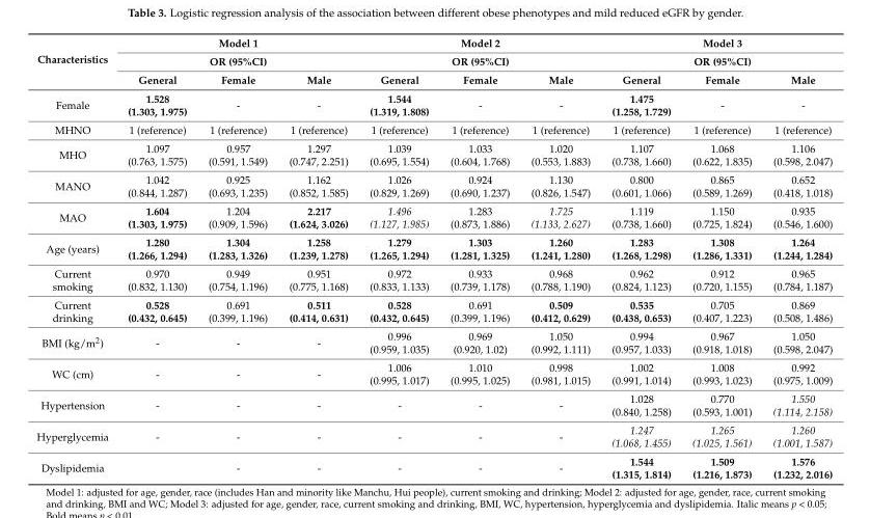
<table><thead><tr><td rowspan="3">Characteristics</td><td rowspan="2" colspan="3">Model 1 OR (95%CI)</td><td rowspan="2" colspan="3">Model 2 OR (95%CI)</td><td rowspan="2" colspan="3">Model 3 OR (95%CI)</td></tr><tr></tr><tr><td>General</td><td>Female</td><td>Male</td><td>General</td><td>Female</td><td>Male</td><td>General</td><td>Female</td><td>Male</td></tr></thead><tbody><tr><td>Female</td><td>1.528 (1.303, 1.975)</td><td>-</td><td>-</td><td>1.544 (1.319, 1.808)</td><td>-</td><td>-</td><td>1.475 (1.258, 1.729)</td><td>-</td><td>-</td></tr><tr><td>MHNO</td><td>1 (reference)</td><td>1 (reference)</td><td>1 (reference)</td><td>1 (reference)</td><td>1 (reference)</td><td>1 (reference)</td><td>1 (reference)</td><td>1 (reference)</td><td>1 (reference)</td></tr><tr><td>MHO</td><td>1.097 (0.763, 1.575)</td><td>0.957 (0.591, 1.549)</td><td>1.297 (0.747, 2.251)</td><td>1.039 (0.695, 1.554)</td><td>1.033 (0.604, 1.768)</td><td>1.020 (0.553, 1.883)</td><td>1.107 (0.738, 1.660)</td><td>1.068 (0.622, 1.835)</td><td>1.106 (0.598, 2.047)</td></tr><tr><td>MANO</td><td>1.042 (0.844, 1.287)</td><td>0.925 (0.693, 1.235)</td><td>1.162 (0.852, 1.585)</td><td>1.026 (0.829, 1.269)</td><td>0.924 (0.690, 1.237)</td><td>1.130 (0.826, 1.547)</td><td>0.800 (0.601, 1.066)</td><td>0.865 (0.589, 1.269)</td><td>0.652 (0.418, 1.018)</td></tr><tr><td>MAO</td><td>1.604 (1.303, 1.975)</td><td>1.204 (0.909, 1.596)</td><td>2.217 (1.624, 3.026)</td><td>1.496 (1.127, 1.985)</td><td>1.283 (0.873, 1.886)</td><td>1.725 (1.133, 2.627)</td><td>1.119 (0.738, 1.660)</td><td>1.150 (0.725, 1.824)</td><td>0.935 (0.546, 1.600)</td></tr><tr><td>Age (years)</td><td>1.280 (1.266, 1.294)</td><td>1.304 (1.283, 1.326)</td><td>1.258 (1.239, 1.278)</td><td>1.279 (1.265, 1.294)</td><td>1.303 (1.281, 1.325)</td><td>1.260 (1.241, 1.280)</td><td>1.283 (1.268, 1.298)</td><td>1.308 (1.286, 1.331)</td><td>1.264 (1.244, 1.284)</td></tr><tr><td>Current smoking</td><td>0.970 (0.832, 1.130)</td><td>0.949 (0.754, 1.196)</td><td>0.951 (0.775, 1.168)</td><td>0.972 (0.833, 1.133)</td><td>0.933 (0.739, 1.178)</td><td>0.968 (0.788, 1.190)</td><td>0.962 (0.824, 1.123)</td><td>0.912 (0.720, 1.155)</td><td>0.965 (0.784, 1.187)</td></tr><tr><td>Current drinking</td><td>0.528 (0.432, 0.645)</td><td>0.691 (0.399, 1.196)</td><td>0.511 (0.414, 0.631)</td><td>0.528 (0.432, 0.645)</td><td>0.691 (0.399, 1.196)</td><td>0.509 (0.412, 0.629)</td><td>0.535 (0.438, 0.653)</td><td>0.705 (0.407, 1.223)</td><td>0.869 (0.508, 1.486)</td></tr><tr><td>BMI (kg/m<sup>2</sup>)</td><td>-</td><td>-</td><td>-</td><td>0.996 (0.959, 1.035)</td><td>0.969 (0.920, 1.02)</td><td>1.050 (0.992, 1.111)</td><td>0.994 (0.957, 1.033)</td><td>0.967 (0.918, 1.018)</td><td>1.050 (0.598, 2.047)</td></tr><tr><td>WC (cm)</td><td>-</td><td>-</td><td>-</td><td>1.006 (0.995, 1.017)</td><td>1.010 (0.995, 1.025)</td><td>0.998 (0.981, 1.015)</td><td>1.002 (0.991, 1.014)</td><td>1.008 (0.993, 1.023)</td><td>0.992 (0.975, 1.009)</td></tr><tr><td>Hypertension</td><td>-</td><td>-</td><td>-</td><td>-</td><td>-</td><td>-</td><td>1.028 (0.840, 1.258)</td><td>0.770 (0.593, 1.001)</td><td>1.550 (1.114, 2.158)</td></tr><tr><td>Hyperglycemia</td><td>-</td><td>-</td><td>-</td><td>-</td><td>-</td><td>-</td><td>1.247 (1.068, 1.455)</td><td>1.265 (1.025, 1.561)</td><td>1.260 (1.001, 1.587)</td></tr><tr><td>Dyslipidemia</td><td></td><td>-</td><td>-</td><td>-</td><td>-</td><td>-</td><td>1.544 (1.315, 1.814)</td><td>1.509 (1.216, 1.873)</td><td>1.576 (1.232, 2.016)</td></tr></tbody></table>